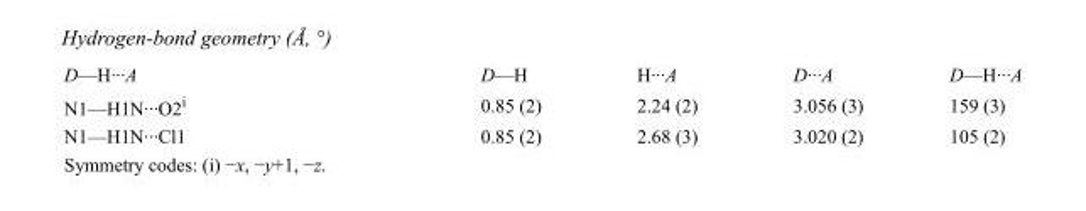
<table><tbody><tr><td>D—H···A</td><td>D—H</td><td>H···A</td><td>D···A</td><td>D—H···A</td></tr><tr><td>N1—H1N···O2<sup>i</sup></td><td>0.85 (2)</td><td>2.24 (2)</td><td>3.056 (3)</td><td>159 (3)</td></tr><tr><td>N1—H1N···Cl1</td><td>0.85 (2)</td><td>2.68 (3)</td><td>3.020 (2)</td><td>105 (2)</td></tr></tbody></table>